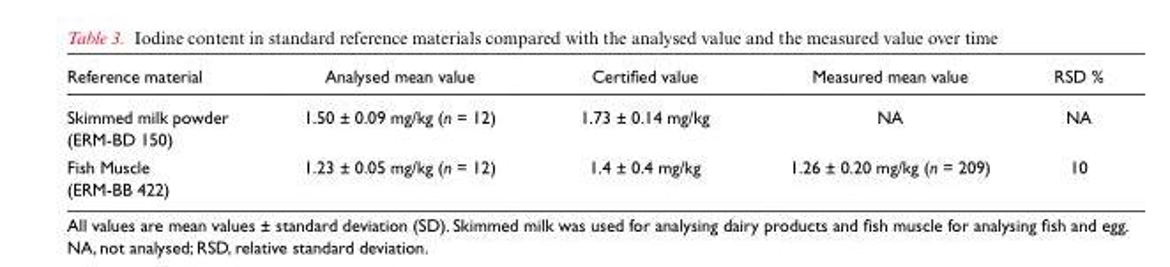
<table><thead><tr><td>Reference material</td><td>Analysed mean value</td><td>Certified value</td><td>Measured mean value</td><td>RSD %</td></tr></thead><tbody><tr><td>Skimmed milk powder (ERM-BD 150)</td><td>1.50 ± 0.09 mg/kg (n = 12)</td><td>1.73 ± 0.14 mg/kg</td><td>NA</td><td>NA</td></tr><tr><td>Fish Muscle (ERM-BB 422)</td><td>1.23 ± 0.05 mg/kg (n = 12)</td><td>1.4 ± 0.4 mg/kg</td><td>1.26 ± 0.20 mg/kg (n = 209)</td><td>10</td></tr></tbody></table>